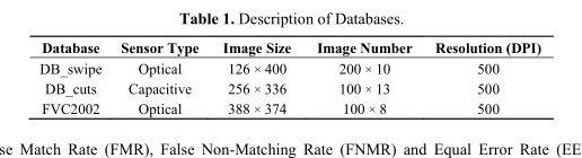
<table><thead><tr><td>Database</td><td>Sensor Type</td><td>Image Size</td><td>Image Number</td><td>Resolution (DPI)</td></tr></thead><tbody><tr><td>DB_swipe</td><td>Optical</td><td>126 × 400</td><td>200 × 10</td><td>500</td></tr><tr><td>DB_cuts</td><td>Capacitive</td><td>256 × 336</td><td>100 × 13</td><td>500</td></tr><tr><td>FVC2002</td><td>Optical</td><td>388 × 374</td><td>100 × 8</td><td>500</td></tr></tbody></table>